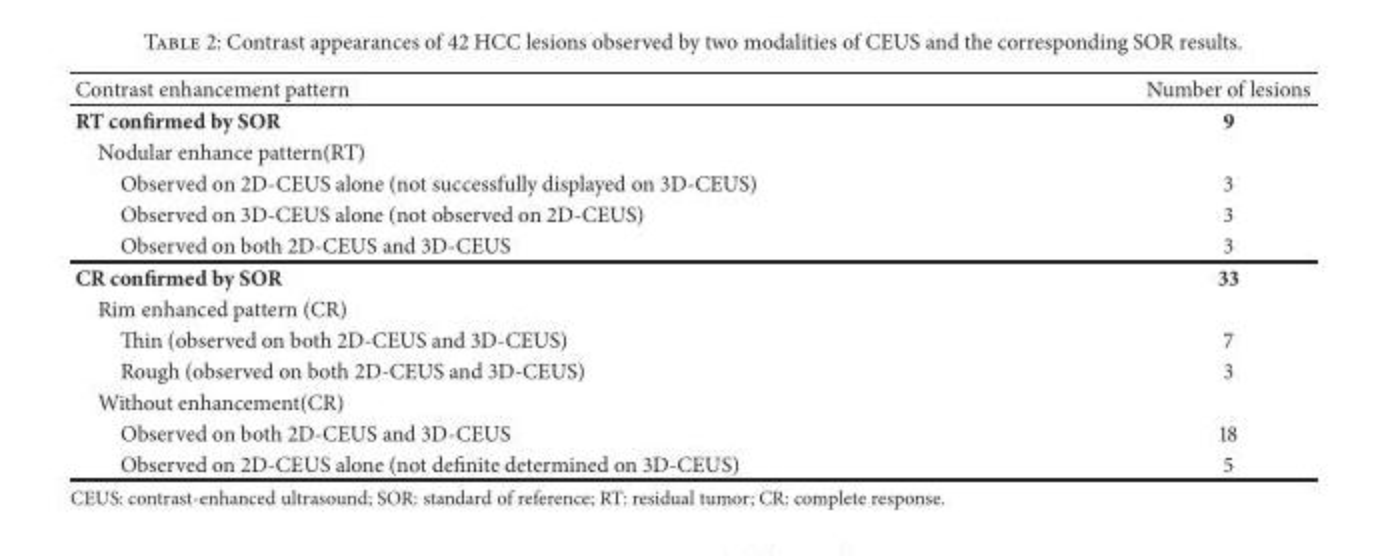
<table><thead><tr><td>Contrast enhancement pattern</td><td>Number of lesions</td></tr></thead><tbody><tr><td>RT confirmed by SOR</td><td>9</td></tr><tr><td colspan="2">Nodular enhance pattern(RT)</td></tr><tr><td>Observed on 2D-CEUS alone (not successfully displayed on 3D-CEUS)</td><td>3</td></tr><tr><td>Observed on 3D-CEUS alone (not observed on 2D-CEUS)</td><td>3</td></tr><tr><td>Observed on both 2D-CEUS and 3D-CEUS</td><td>3</td></tr><tr><td>CR confirmed by SOR</td><td>33</td></tr><tr><td colspan="2">Rim enhanced pattern (CR)</td></tr><tr><td>Thin (observed on both 2D-CEUS and 3D-CEUS)</td><td>7</td></tr><tr><td>Rough (observed on both 2D-CEUS and 3D-CEUS)</td><td>3</td></tr><tr><td colspan="2">Without enhancement(CR)</td></tr><tr><td>Observed on both 2D-CEUS and 3D-CEUS</td><td>18</td></tr><tr><td>Observed on 2D-CEUS alone (not definite determined on 3D-CEUS)</td><td>5</td></tr></tbody></table>